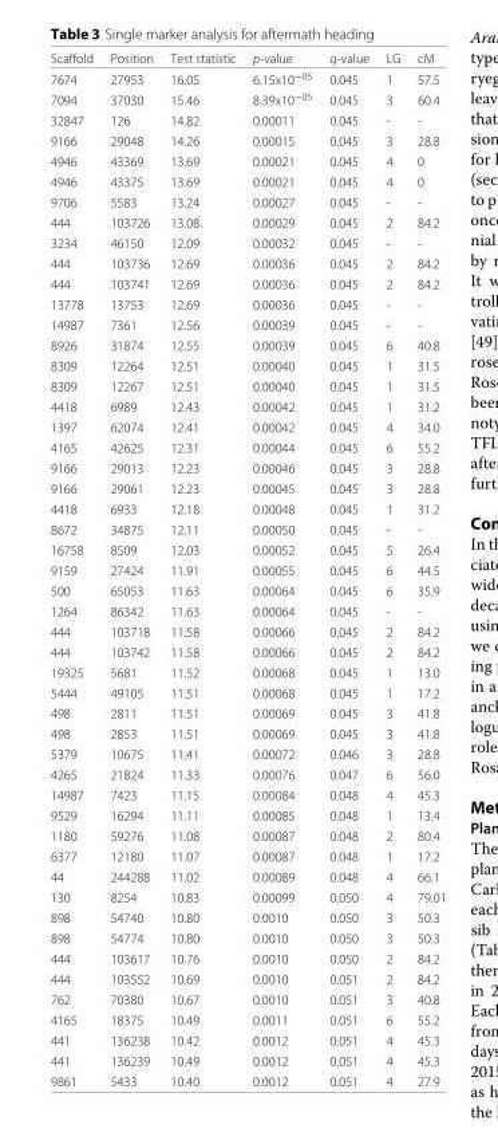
<table><thead><tr><td>Scaffold</td><td>Position</td><td>Test statistic</td><td>p-value</td><td>q-value</td><td>LG</td><td>cM</td></tr></thead><tbody><tr><td>7674</td><td>27953</td><td>16.05</td><td>6.15x10<sup>−05</sup></td><td>0.045</td><td>1</td><td>57.5</td></tr><tr><td>7094</td><td>37030</td><td>15.46</td><td>8.39x10<sup>−05</sup></td><td>0.045</td><td>3</td><td>60.4</td></tr><tr><td>32847</td><td>126</td><td>14.82</td><td>0.00011</td><td>0.045</td><td>-</td><td>-</td></tr><tr><td>9166</td><td>29048</td><td>14.26</td><td>0.00015</td><td>0.045</td><td>3</td><td>28.8</td></tr><tr><td>4946</td><td>43369</td><td>13.69</td><td>0.00021</td><td>0.045</td><td>4</td><td>0</td></tr><tr><td>4946</td><td>43375</td><td>13.69</td><td>0.00021</td><td>0.045</td><td>4</td><td>0</td></tr><tr><td>9706</td><td>5583</td><td>13.24</td><td>0.00027</td><td>0.045</td><td>-</td><td>-</td></tr><tr><td>444</td><td>103726</td><td>13.08</td><td>0.00029</td><td>0.045</td><td>2</td><td>84.2</td></tr><tr><td>3234</td><td>46150</td><td>12.09</td><td>0.00032</td><td>0.045</td><td>-</td><td>-</td></tr><tr><td>444</td><td>103736</td><td>12.69</td><td>0.00036</td><td>0.045</td><td>2</td><td>84.2</td></tr><tr><td>444</td><td>103741</td><td>12.69</td><td>0.00036</td><td>0.045</td><td>2</td><td>84.2</td></tr><tr><td>13778</td><td>13753</td><td>12.69</td><td>0.00036</td><td>0.045</td><td>-</td><td>-</td></tr><tr><td>14987</td><td>7361</td><td>12.56</td><td>0.00039</td><td>0.045</td><td>-</td><td>-</td></tr><tr><td>8926</td><td>31874</td><td>12.55</td><td>0.00039</td><td>0.045</td><td>6</td><td>40.8</td></tr><tr><td>8309</td><td>12264</td><td>12.51</td><td>0.00040</td><td>0.045</td><td>1</td><td>31.5</td></tr><tr><td>8309</td><td>12267</td><td>12.51</td><td>0.00040</td><td>0.045</td><td>1</td><td>31.5</td></tr><tr><td>4418</td><td>6989</td><td>12.43</td><td>0.00042</td><td>0.045</td><td>1</td><td>31.2</td></tr><tr><td>1397</td><td>62074</td><td>12.41</td><td>0.00042</td><td>0.045</td><td>4</td><td>34.0</td></tr><tr><td>4165</td><td>42625</td><td>12.31</td><td>0.00044</td><td>0.045</td><td>6</td><td>55.2</td></tr><tr><td>9166</td><td>29013</td><td>12.23</td><td>0.00046</td><td>0.045</td><td>3</td><td>28.8</td></tr><tr><td>9166</td><td>29061</td><td>12.23</td><td>0.00045</td><td>0.045</td><td>3</td><td>28.8</td></tr><tr><td>4418</td><td>6933</td><td>12.18</td><td>0.00048</td><td>0.045</td><td>1</td><td>31.2</td></tr><tr><td>8672</td><td>34875</td><td>12.11</td><td>0.00050</td><td>0.045</td><td>-</td><td>-</td></tr><tr><td>16758</td><td>8509</td><td>12.03</td><td>0.00052</td><td>0.045</td><td>5</td><td>26.4</td></tr><tr><td>9159</td><td>27424</td><td>11.91</td><td>0.00055</td><td>0.045</td><td>6</td><td>44.5</td></tr><tr><td>500</td><td>65053</td><td>11.63</td><td>0.00064</td><td>0.045</td><td>6</td><td>35.9</td></tr><tr><td>1264</td><td>86342</td><td>11.63</td><td>0.00064</td><td>0.045</td><td>-</td><td>-</td></tr><tr><td>444</td><td>103718</td><td>11.58</td><td>0.00066</td><td>0.045</td><td>2</td><td>84.2</td></tr><tr><td>444</td><td>103742</td><td>11.58</td><td>0.00066</td><td>0.045</td><td>2</td><td>84.2</td></tr><tr><td>19325</td><td>5681</td><td>11.52</td><td>0.00068</td><td>0.045</td><td>1</td><td>13.0</td></tr><tr><td>5444</td><td>49105</td><td>11.51</td><td>0.00068</td><td>0.045</td><td>1</td><td>17.2</td></tr><tr><td>498</td><td>2811</td><td>11.51</td><td>0.00069</td><td>0.045</td><td>3</td><td>41.8</td></tr><tr><td>498</td><td>2853</td><td>11.51</td><td>0.00069</td><td>0.045</td><td>3</td><td>41.8</td></tr><tr><td>5379</td><td>10675</td><td>11.41</td><td>0.00072</td><td>0.046</td><td>3</td><td>28.8</td></tr><tr><td>4265</td><td>21824</td><td>11.33</td><td>0.00076</td><td>0.047</td><td>6</td><td>56.0</td></tr><tr><td>14987</td><td>7423</td><td>11.15</td><td>0.00084</td><td>0.048</td><td>4</td><td>45.3</td></tr><tr><td>9529</td><td>16294</td><td>11.11</td><td>0.00085</td><td>0.048</td><td>1</td><td>13.4</td></tr><tr><td>1180</td><td>59276</td><td>11.08</td><td>0.00087</td><td>0.048</td><td>2</td><td>80.4</td></tr><tr><td>6377</td><td>12180</td><td>11.07</td><td>0.00087</td><td>0.048</td><td>1</td><td>17.2</td></tr><tr><td>44</td><td>244288</td><td>11.02</td><td>0.00089</td><td>0.048</td><td>4</td><td>66.1</td></tr><tr><td>130</td><td>8254</td><td>10.83</td><td>0.00099</td><td>0.050</td><td>4</td><td>79.01</td></tr><tr><td>898</td><td>54740</td><td>10.80</td><td>0.0010</td><td>0.050</td><td>3</td><td>50.3</td></tr><tr><td>898</td><td>54774</td><td>10.80</td><td>0.0010</td><td>0.050</td><td>3</td><td>50.3</td></tr><tr><td>444</td><td>103617</td><td>10.76</td><td>0.0010</td><td>0.050</td><td>2</td><td>84.2</td></tr><tr><td>444</td><td>103552</td><td>10.69</td><td>0.0010</td><td>0.051</td><td>2</td><td>84.2</td></tr><tr><td>762</td><td>70380</td><td>10.67</td><td>0.0010</td><td>0.051</td><td>3</td><td>40.8</td></tr><tr><td>4165</td><td>18375</td><td>10.49</td><td>0.0011</td><td>0.051</td><td>6</td><td>55.2</td></tr><tr><td>441</td><td>136238</td><td>10.42</td><td>0.0012</td><td>0.051</td><td>4</td><td>45.3</td></tr><tr><td>441</td><td>136239</td><td>10.49</td><td>0.0012</td><td>0.051</td><td>4</td><td>45.3</td></tr><tr><td>9861</td><td>5433</td><td>10.40</td><td>0.0012</td><td>0.051</td><td>4</td><td>27.9</td></tr></tbody></table>